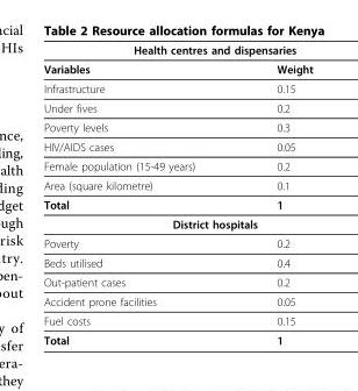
<table><thead><tr><td colspan="2">Health centres and dispensaries</td></tr><tr><td>Variables</td><td>Weight</td></tr></thead><tbody><tr><td>Infrastructure</td><td>0.15</td></tr><tr><td>Under fives</td><td>0.2</td></tr><tr><td>Poverty levels</td><td>0.3</td></tr><tr><td>HIV/AIDS cases</td><td>0.05</td></tr><tr><td>Female population (15-49 years)</td><td>0.2</td></tr><tr><td>Area (square kilometre)</td><td>0.1</td></tr><tr><td>Total</td><td>1</td></tr><tr><td colspan="2">District hospitals</td></tr><tr><td>Poverty</td><td>0.2</td></tr><tr><td>Beds utilised</td><td>0.4</td></tr><tr><td>Out-patient cases</td><td>0.2</td></tr><tr><td>Accident prone facilities</td><td>0.05</td></tr><tr><td>Fuel costs</td><td>0.15</td></tr><tr><td>Total</td><td>1</td></tr></tbody></table>